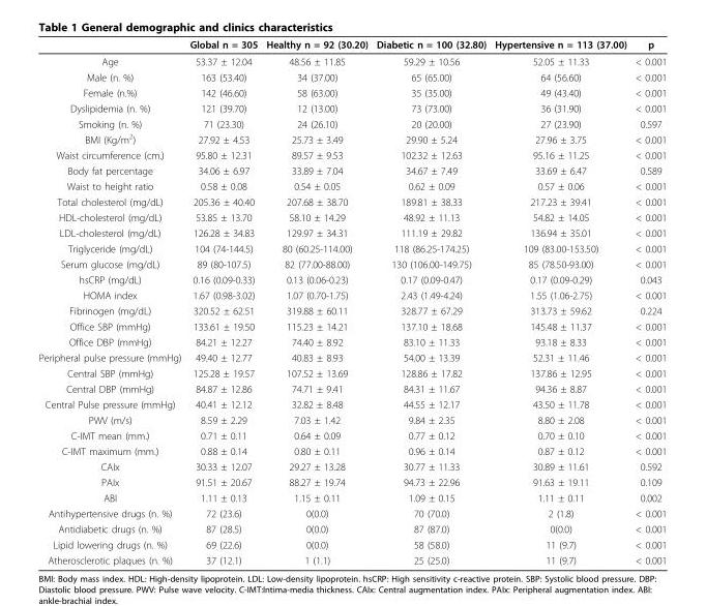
<table><thead><tr><td></td><td>Global n = 305</td><td>Healthy n = 92 (30.20)</td><td>Diabetic n = 100 (32.80)</td><td>Hypertensive n = 113 (37.00)</td><td>p</td></tr></thead><tbody><tr><td>Age</td><td>53.37 ± 12.04</td><td>48.56 ± 11.85</td><td>59.29 ± 10.56</td><td>52.05 ± 11.33</td><td>&lt; 0.001</td></tr><tr><td>Male (n. %)</td><td>163 (53.40)</td><td>34 (37.00)</td><td>65 (65.00)</td><td>64 (56.60)</td><td>&lt; 0.001</td></tr><tr><td>Female (n.%)</td><td>142 (46.60)</td><td>58 (63.00)</td><td>35 (35.00)</td><td>49 (43.40)</td><td>&lt; 0.001</td></tr><tr><td>Dyslipidemia (n. %)</td><td>121 (39.70)</td><td>12 (13.00)</td><td>73 (73.00)</td><td>36 (31.90)</td><td>&lt; 0.001</td></tr><tr><td>Smoking (n. %)</td><td>71 (23.30)</td><td>24 (26.10)</td><td>20 (20.00)</td><td>27 (23.90)</td><td>0.597</td></tr><tr><td>BMI (Kg/m<sup>2</sup>)</td><td>27.92 ± 4.53</td><td>25.73 ± 3.49</td><td>29.90 ± 5.24</td><td>27.96 ± 3.75</td><td>&lt; 0.001</td></tr><tr><td>Waist circumference (cm.)</td><td>95.80 ± 12.31</td><td>89.57 ± 9.53</td><td>102.32 ± 12.63</td><td>95.16 ± 11.25</td><td>&lt; 0.001</td></tr><tr><td>Body fat percentage</td><td>34.06 ± 6.97</td><td>33.89 ± 7.04</td><td>34.67 ± 7.49</td><td>33.69 ± 6.47</td><td>0.589</td></tr><tr><td>Waist to height ratio</td><td>0.58 ± 0.08</td><td>0.54 ± 0.05</td><td>0.62 ± 0.09</td><td>0.57 ± 0.06</td><td>&lt; 0.001</td></tr><tr><td>Total cholesterol (mg/dL)</td><td>205.36 ± 40.40</td><td>207.68 ± 38.70</td><td>189.81 ± 38.33</td><td>217.23 ± 39.41</td><td>&lt; 0.001</td></tr><tr><td>HDL-cholesterol (mg/dL)</td><td>53.85 ± 13.70</td><td>58.10 ± 14.29</td><td>48.92 ± 11.13</td><td>54.82 ± 14.05</td><td>&lt; 0.001</td></tr><tr><td>LDL-cholesterol (mg/dL)</td><td>126.28 ± 34.83</td><td>129.97 ± 34.31</td><td>111.19 ± 29.82</td><td>136.94 ± 35.01</td><td>&lt; 0.001</td></tr><tr><td>Triglyceride (mg/dL)</td><td>104 (74-144.5)</td><td>80 (60.25-114.00)</td><td>118 (86.25-174.25)</td><td>109 (83.00-153.50)</td><td>&lt; 0.001</td></tr><tr><td>Serum glucose (mg/dL)</td><td>89 (80-107.5)</td><td>82 (77.00-88.00)</td><td>130 (106.00-149.75)</td><td>85 (78.50-93.00)</td><td>&lt; 0.001</td></tr><tr><td>hsCRP (mg/dL)</td><td>0.16 (0.09-0.33)</td><td>0.13 (0.06-0.23)</td><td>0.17 (0.09-0.47)</td><td>0.17 (0.09-0.29)</td><td>0.043</td></tr><tr><td>HOMA index</td><td>1.67 (0.98-3.02)</td><td>1.07 (0.70-1.75)</td><td>2.43 (1.49-4.24)</td><td>1.55 (1.06-2.75)</td><td>&lt; 0.001</td></tr><tr><td>Fibrinogen (mg/dL)</td><td>320.52 ± 62.51</td><td>319.88 ± 60.11</td><td>328.77 ± 67.29</td><td>313.73 ± 59.62</td><td>0.224</td></tr><tr><td>Office SBP (mmHg)</td><td>133.61 ± 19.50</td><td>115.23 ± 14.21</td><td>137.10 ± 18.68</td><td>145.48 ± 11.37</td><td>&lt; 0.001</td></tr><tr><td>Office DBP (mmHg)</td><td>84.21 ± 12.27</td><td>74.40 ± 8.92</td><td>83.10 ± 11.33</td><td>93.18 ± 8.33</td><td>&lt; 0.001</td></tr><tr><td>Peripheral pulse pressure (mmHg)</td><td>49.40 ± 12.77</td><td>40.83 ± 8.93</td><td>54.00 ± 13.39</td><td>52.31 ± 11.46</td><td>&lt; 0.001</td></tr><tr><td>Central SBP (mmHg)</td><td>125.28 ± 19.57</td><td>107.52 ± 13.69</td><td>128.86 ± 17.82</td><td>137.86 ± 12.95</td><td>&lt; 0.001</td></tr><tr><td>Central DBP (mmHg)</td><td>84.87 ± 12.86</td><td>74.71 ± 9.41</td><td>84.31 ± 11.67</td><td>94.36 ± 8.87</td><td>&lt; 0.001</td></tr><tr><td>Central Pulse pressure (mmHg)</td><td>40.41 ± 12.12</td><td>32.82 ± 8.48</td><td>44.55 ± 12.17</td><td>43.50 ± 11.78</td><td>&lt; 0.001</td></tr><tr><td>PWV (m/s)</td><td>8.59 ± 2.29</td><td>7.03 ± 1.42</td><td>9.84 ± 2.35</td><td>8.80 ± 2.08</td><td>&lt; 0.001</td></tr><tr><td>C-IMT mean (mm.)</td><td>0.71 ± 0.11</td><td>0.64 ± 0.09</td><td>0.77 ± 0.12</td><td>0.70 ± 0.10</td><td>&lt; 0.001</td></tr><tr><td>C-IMT maximum (mm.)</td><td>0.88 ± 0.14</td><td>0.80 ± 0.11</td><td>0.96 ± 0.14</td><td>0.87 ± 0.12</td><td>&lt; 0.001</td></tr><tr><td>CAIx</td><td>30.33 ± 12.07</td><td>29.27 ± 13.28</td><td>30.77 ± 11.33</td><td>30.89 ± 11.61</td><td>0.592</td></tr><tr><td>PAIx</td><td>91.51 ± 20.67</td><td>88.27 ± 19.74</td><td>94.73 ± 22.96</td><td>91.63 ± 19.11</td><td>0.109</td></tr><tr><td>ABI</td><td>1.11 ± 0.13</td><td>1.15 ± 0.11</td><td>1.09 ± 0.15</td><td>1.11 ± 0.11</td><td>0.002</td></tr><tr><td>Antihypertensive drugs (n. %)</td><td>72 (23.6)</td><td>0(0.0)</td><td>70 (70.0)</td><td>2 (1.8)</td><td>&lt; 0.001</td></tr><tr><td>Antidiabetic drugs (n. %)</td><td>87 (28.5)</td><td>0(0.0)</td><td>87 (87.0)</td><td>0(0.0)</td><td>&lt; 0.001</td></tr><tr><td>Lipid lowering drugs (n. %)</td><td>69 (22.6)</td><td>0(0.0)</td><td>58 (58.0)</td><td>11 (9.7)</td><td>&lt; 0.001</td></tr><tr><td>Atherosclerotic plaques (n. %)</td><td>37 (12.1)</td><td>1 (1.1)</td><td>25 (25.0)</td><td>11 (9.7)</td><td>&lt; 0.001</td></tr></tbody></table>